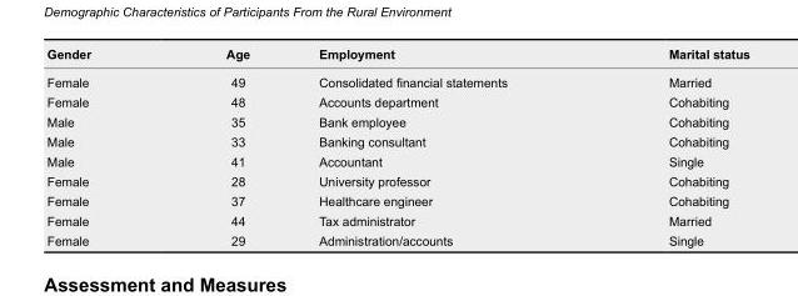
<table><thead><tr><td>Gender</td><td>Age</td><td>Employment</td><td>Marital status</td></tr></thead><tbody><tr><td>Female</td><td>49</td><td>Consolidated financial statements</td><td>Married</td></tr><tr><td>Female</td><td>48</td><td>Accounts department</td><td>Cohabiting</td></tr><tr><td>Male</td><td>35</td><td>Bank employee</td><td>Cohabiting</td></tr><tr><td>Male</td><td>33</td><td>Banking consultant</td><td>Cohabiting</td></tr><tr><td>Male</td><td>41</td><td>Accountant</td><td>Single</td></tr><tr><td>Female</td><td>28</td><td>University professor</td><td>Cohabiting</td></tr><tr><td>Female</td><td>37</td><td>Healthcare engineer</td><td>Cohabiting</td></tr><tr><td>Female</td><td>44</td><td>Tax administrator</td><td>Married</td></tr><tr><td>Female</td><td>29</td><td>Administration/accounts</td><td>Single</td></tr></tbody></table>